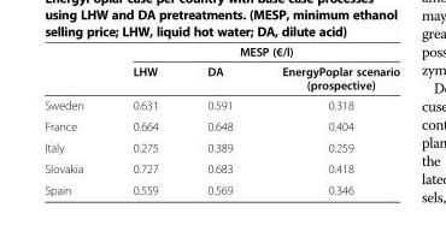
<table><thead><tr><td rowspan="2"></td><td colspan="3">MESP (€/l)</td></tr><tr><td>LHW</td><td>DA</td><td>EnergyPoplar scenario (prospective)</td></tr></thead><tbody><tr><td>Sweden</td><td>0.631</td><td>0.591</td><td>0.318</td></tr><tr><td>France</td><td>0.664</td><td>0.648</td><td>0.404</td></tr><tr><td>Italy</td><td>0.275</td><td>0.389</td><td>0.259</td></tr><tr><td>Slovakia</td><td>0.727</td><td>0.683</td><td>0.418</td></tr><tr><td>Spain</td><td>0.559</td><td>0.569</td><td>0.346</td></tr></tbody></table>